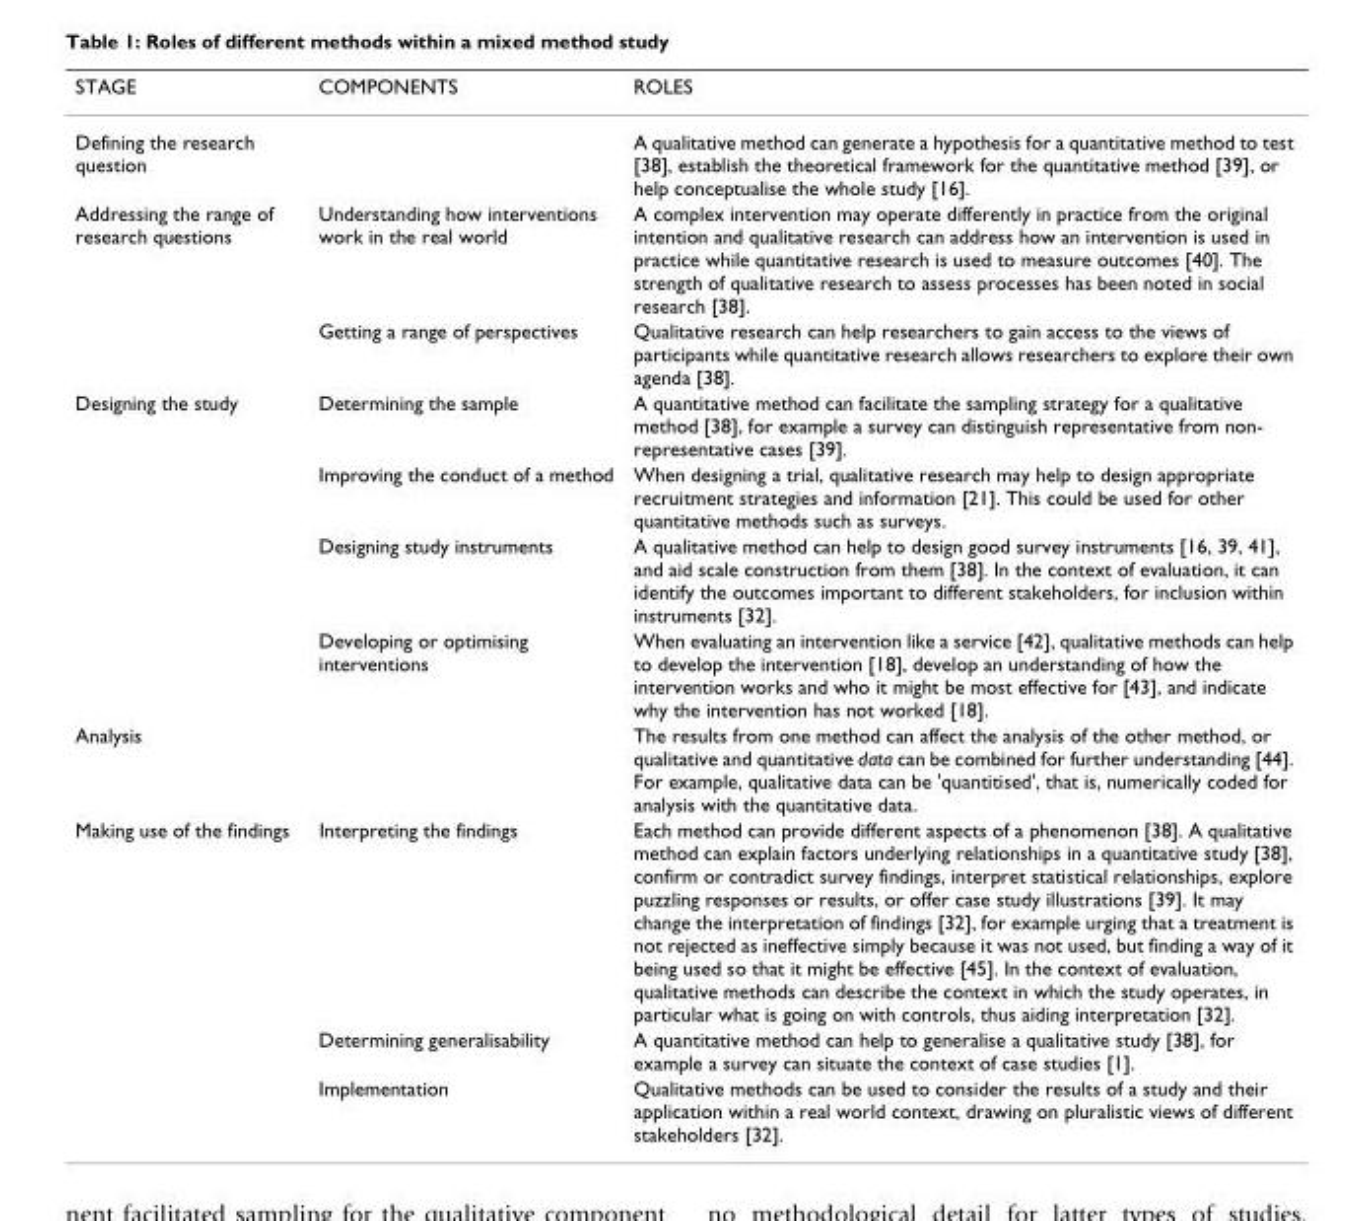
<table><thead><tr><td>STAGE</td><td>COMPONENTS</td><td>ROLES</td></tr></thead><tbody><tr><td>Defining the research question</td><td></td><td>A qualitative method can generate a hypothesis for a quantitative method to test [38], establish the theoretical framework for the quantitative method [39], or help conceptualise the whole study [16].</td></tr><tr><td rowspan="2">Addressing the range of research questions</td><td>Understanding how interventions work in the real world</td><td>A complex intervention may operate differently in practice from the original intention and qualitative research can address how an intervention is used in practice while quantitative research is used to measure outcomes [40]. The strength of qualitative research to assess processes has been noted in social research [38].</td></tr><tr><td>Getting a range of perspectives</td><td>Qualitative research can help researchers to gain access to the views of participants while quantitative research allows researchers to explore their own agenda [38].</td></tr><tr><td rowspan="4">Designing the study</td><td>Determining the sample</td><td>A quantitative method can facilitate the sampling strategy for a qualitative method [38], for example a survey can distinguish representative from non- representative cases [39].</td></tr><tr><td>Improving the conduct of a method</td><td>When designing a trial, qualitative research may help to design appropriate recruitment strategies and information [21]. This could be used for other quantitative methods such as surveys.</td></tr><tr><td>Designing study instruments</td><td>A qualitative method can help to design good survey instruments [16, 39, 41], and aid scale construction from them [38]. In the context of evaluation, it can identify the outcomes important to different stakeholders, for inclusion within instruments [32].</td></tr><tr><td>Developing or optimising interventions</td><td>When evaluating an intervention like a service [42], qualitative methods can help to develop the intervention [18], develop an understanding of how the intervention works and who it might be most effective for [43], and indicate why the intervention has not worked [18].</td></tr><tr><td>Analysis</td><td></td><td>The results from one method can affect the analysis of the other method, or qualitative and quantitative data can be combined for further understanding [44]. For example, qualitative data can be &#x27;quantitised&#x27;, that is, numerically coded for analysis with the quantitative data.</td></tr><tr><td rowspan="3">Making use of the findings</td><td>Interpreting the findings</td><td>Each method can provide different aspects of a phenomenon [38]. A qualitative method can explain factors underlying relationships in a quantitative study [38], confirm or contradict survey findings, interpret statistical relationships, explore puzzling responses or results, or offer case study illustrations [39]. It may change the interpretation of findings [32], for example urging that a treatment is not rejected as ineffective simply because it was not used, but finding a way of it being used so that it might be effective [45]. In the context of evaluation, qualitative methods can describe the context in which the study operates, in particular what is going on with controls, thus aiding interpretation [32].</td></tr><tr><td>Determining generalisability</td><td>A quantitative method can help to generalise a qualitative study [38], for example a survey can situate the context of case studies [1].</td></tr><tr><td>Implementation</td><td>Qualitative methods can be used to consider the results of a study and their application within a real world context, drawing on pluralistic views of different stakeholders [32].</td></tr></tbody></table>